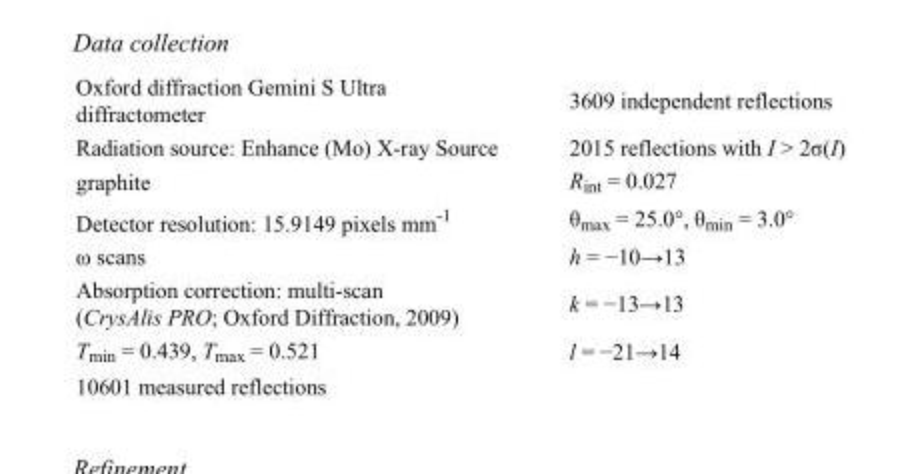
<table><tbody><tr><td>Oxford diffraction Gemini S Ultra diffractometer</td><td>3609 independent reflections</td></tr><tr><td>Radiation source: Enhance (Mo) X-ray Source</td><td>2015 reflections with I &gt; 2σ(I)</td></tr><tr><td>graphite</td><td>R<sub>int</sub> = 0.027</td></tr><tr><td>Detector resolution: 15.9149 pixels mm<sup>-1</sup></td><td>θ<sub>max</sub> = 25.0°, θ<sub>min</sub> = 3.0°</td></tr><tr><td>ω scans</td><td>h = −10→13</td></tr><tr><td>Absorption correction: multi-scan (CrysAlis PRO; Oxford Diffraction, 2009)</td><td>k = −13→13</td></tr><tr><td>T<sub>min</sub> = 0.439, T<sub>max</sub> = 0.521</td><td>l = −21→14</td></tr><tr><td>10601 measured reflections</td><td></td></tr></tbody></table>